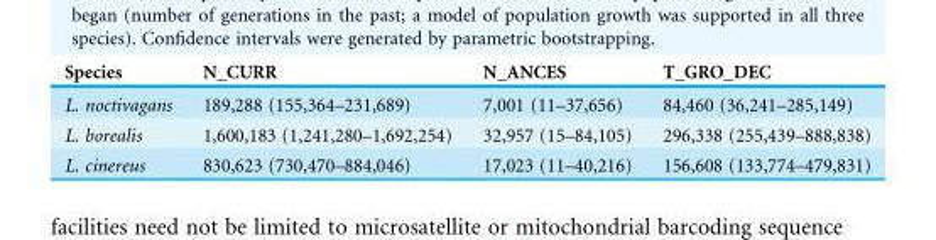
<table><thead><tr><td>Species</td><td>N_CURR</td><td>N_ANCES</td><td>T_GRO_DEC</td></tr></thead><tbody><tr><td>L. noctivagans</td><td>189,288 (155,364–231,689)</td><td>7,001 (11–37,656)</td><td>84,460 (36,241–285,149)</td></tr><tr><td>L. borealis</td><td>1,600,183 (1,241,280–1,692,254)</td><td>32,957 (15–84,105)</td><td>296,338 (255,439–888,838)</td></tr><tr><td>L. cinereus</td><td>830,623 (730,470–884,046)</td><td>17,023 (11–40,216)</td><td>156,608 (133,774–479,831)</td></tr></tbody></table>